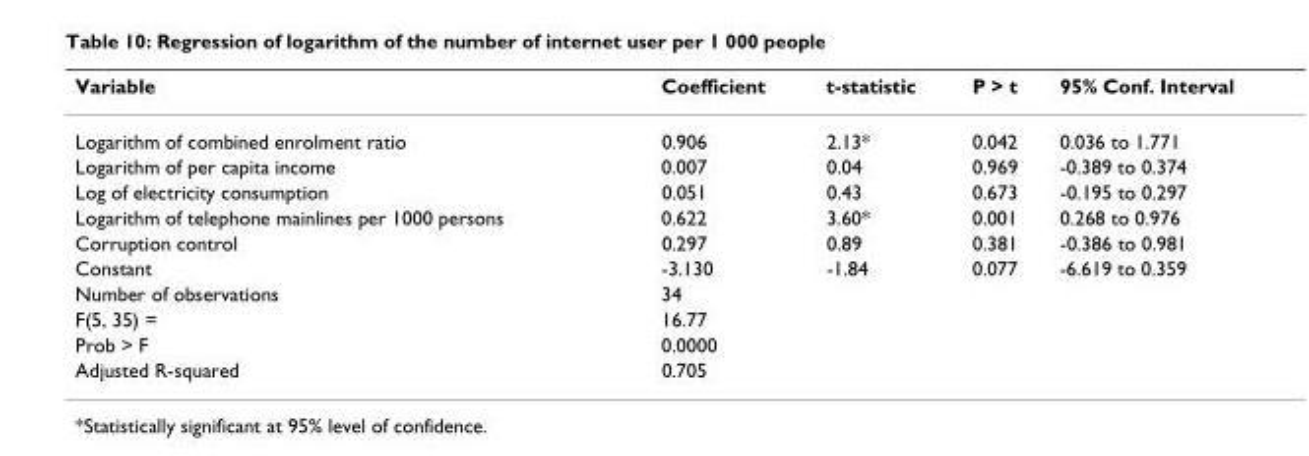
<table><thead><tr><td>Variable</td><td>Coefficient</td><td>t-statistic</td><td>P &gt; t</td><td>95% Conf. Interval</td></tr></thead><tbody><tr><td>Logarithm of combined enrolment ratio</td><td>0.906</td><td>2.13*</td><td>0.042</td><td>0.036 to 1.771</td></tr><tr><td>Logarithm of per capita income</td><td>0.007</td><td>0.04</td><td>0.969</td><td>-0.389 to 0.374</td></tr><tr><td>Log of electricity consumption</td><td>0.051</td><td>0.43</td><td>0.673</td><td>-0.195 to 0.297</td></tr><tr><td>Logarithm of telephone mainlines per 1000 persons</td><td>0.622</td><td>3.60*</td><td>0.001</td><td>0.268 to 0.976</td></tr><tr><td>Corruption control</td><td>0.297</td><td>0.89</td><td>0.381</td><td>-0.386 to 0.981</td></tr><tr><td>Constant</td><td>-3.130</td><td>-1.84</td><td>0.077</td><td>-6.619 to 0.359</td></tr><tr><td>Number of observations</td><td colspan="4">34</td></tr><tr><td>F(5, 35) =</td><td colspan="4">16.77</td></tr><tr><td>Prob &gt; F</td><td colspan="4">0.0000</td></tr><tr><td>Adjusted R-squared</td><td colspan="4">0.705</td></tr></tbody></table>